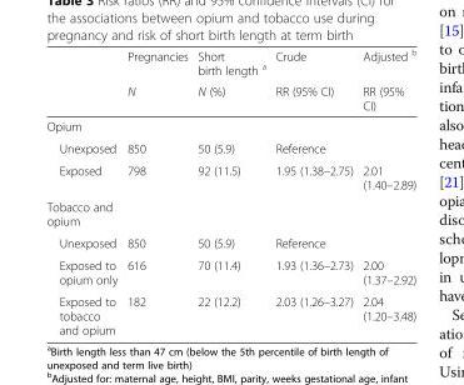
<table><thead><tr><td rowspan="2"></td><td rowspan="2">Pregnancies N</td><td rowspan="2">Short birth length <sup>a</sup> N (%)</td><td rowspan="2">Crude RR (95% CI)</td><td rowspan="2">Adjusted <sup>b</sup> RR (95% CI)</td></tr><tr></tr></thead><tbody><tr><td colspan="5">Opium</td></tr><tr><td>Unexposed</td><td>850</td><td>50 (5.9)</td><td colspan="2">Reference</td></tr><tr><td>Exposed</td><td>798</td><td>92 (11.5)</td><td>1.95 (1.38–2.75)</td><td>2.01 (1.40–2.89)</td></tr><tr><td colspan="5">Tobacco and opium</td></tr><tr><td>Unexposed</td><td>850</td><td>50 (5.9)</td><td colspan="2">Reference</td></tr><tr><td>Exposed to opium only</td><td>616</td><td>70 (11.4)</td><td>1.93 (1.36–2.73)</td><td>2.00 (1.37–2.92)</td></tr><tr><td>Exposed to tobacco and opium</td><td>182</td><td>22 (12.2)</td><td>2.03 (1.26–3.27)</td><td>2.04 (1.20–3.48)</td></tr></tbody></table>